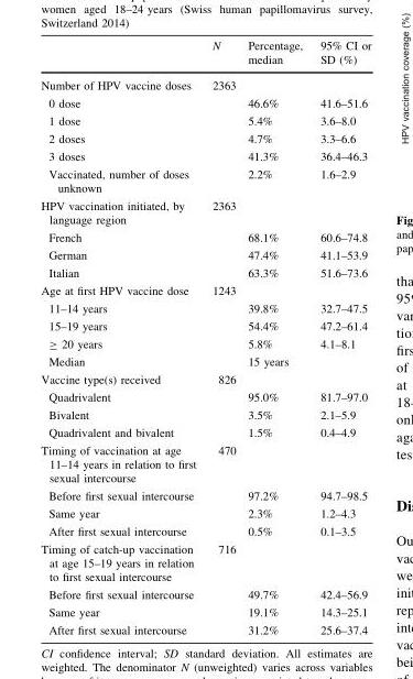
<table><thead><tr><td></td><td>N</td><td>Percentage, median</td><td>95% CI or SD (%)</td></tr></thead><tbody><tr><td>Number of HPV vaccine doses</td><td>2363</td><td></td><td></td></tr><tr><td>0 dose</td><td></td><td>46.6%</td><td>41.6–51.6</td></tr><tr><td>1 dose</td><td></td><td>5.4%</td><td>3.6–8.0</td></tr><tr><td>2 doses</td><td></td><td>4.7%</td><td>3.3–6.6</td></tr><tr><td>3 doses</td><td></td><td>41.3%</td><td>36.4–46.3</td></tr><tr><td>Vaccinated, number of doses unknown</td><td></td><td>2.2%</td><td>1.6–2.9</td></tr><tr><td>HPV vaccination initiated, by language region</td><td>2363</td><td></td><td></td></tr><tr><td>French</td><td></td><td>68.1%</td><td>60.6–74.8</td></tr><tr><td>German</td><td></td><td>47.4%</td><td>41.1–53.9</td></tr><tr><td>Italian</td><td></td><td>63.3%</td><td>51.6–73.6</td></tr><tr><td>Age at first HPV vaccine dose</td><td>1243</td><td></td><td></td></tr><tr><td>11–14 years</td><td></td><td>39.8%</td><td>32.7–47.5</td></tr><tr><td>15–19 years</td><td></td><td>54.4%</td><td>47.2–61.4</td></tr><tr><td>≥ 20 years</td><td></td><td>5.8%</td><td>4.1–8.1</td></tr><tr><td>Median</td><td></td><td>15 years</td><td></td></tr><tr><td>Vaccine type(s) received</td><td>826</td><td></td><td></td></tr><tr><td>Quadrivalent</td><td></td><td>95.0%</td><td>81.7–97.0</td></tr><tr><td>Bivalent</td><td></td><td>3.5%</td><td>2.1–5.9</td></tr><tr><td>Quadrivalent and bivalent</td><td></td><td>1.5%</td><td>0.4–4.9</td></tr><tr><td>Timing of vaccination at age 11–14 years in relation to first sexual intercourse</td><td>470</td><td></td><td></td></tr><tr><td>Before first sexual intercourse</td><td></td><td>97.2%</td><td>94.7–98.5</td></tr><tr><td>Same year</td><td></td><td>2.3%</td><td>1.2–4.3</td></tr><tr><td>After first sexual intercourse</td><td></td><td>0.5%</td><td>0.1–3.5</td></tr><tr><td>Timing of catch-up vaccination at age 15–19 years in relation to first sexual intercourse</td><td>716</td><td></td><td></td></tr><tr><td>Before first sexual intercourse</td><td></td><td>49.7%</td><td>42.4–56.9</td></tr><tr><td>Same year</td><td></td><td>19.1%</td><td>14.3–25.1</td></tr><tr><td>After first sexual intercourse</td><td></td><td>31.2%</td><td>25.6–37.4</td></tr></tbody></table>